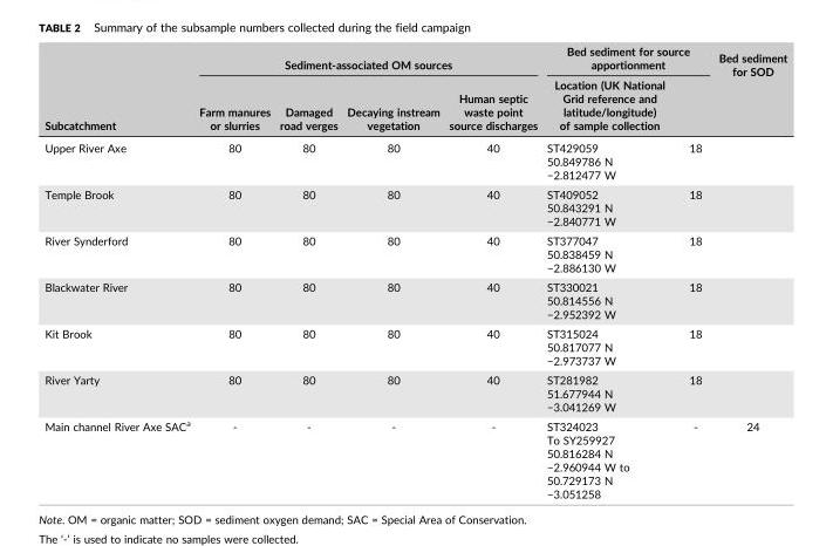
<table><thead><tr><td rowspan="2">Subcatchment</td><td colspan="4">Sediment‐associated OM sources</td><td colspan="2">Bed sediment for source apportionment</td><td rowspan="2">Bed sediment for SOD</td></tr><tr><td>Farm manures or slurries</td><td>Damaged road verges</td><td>Decaying instream vegetation</td><td>Human septic waste point source discharges</td><td>Location (UK National Grid reference and latitude/longitude) of sample collection</td><td></td></tr></thead><tbody><tr><td>Upper River Axe</td><td>80</td><td>80</td><td>80</td><td>40</td><td>ST429059 50.849786 N −2.812477 W</td><td>18</td><td></td></tr><tr><td>Temple Brook</td><td>80</td><td>80</td><td>80</td><td>40</td><td>ST409052 50.843291 N −2.840771 W</td><td>18</td><td></td></tr><tr><td>River Synderford</td><td>80</td><td>80</td><td>80</td><td>40</td><td>ST377047 50.838459 N −2.886130 W</td><td>18</td><td></td></tr><tr><td>Blackwater River</td><td>80</td><td>80</td><td>80</td><td>40</td><td>ST330021 50.814556 N −2.952392 W</td><td>18</td><td></td></tr><tr><td>Kit Brook</td><td>80</td><td>80</td><td>80</td><td>40</td><td>ST315024 50.817077 N −2.973737 W</td><td>18</td><td></td></tr><tr><td>River Yarty</td><td>80</td><td>80</td><td>80</td><td>40</td><td>ST281982 51.677944 N −3.041269 W</td><td>18</td><td></td></tr><tr><td>Main channel River Axe SAC<sup>a</sup></td><td>‐</td><td>‐</td><td>‐</td><td>‐</td><td>ST324023 To SY259927 50.816284 N −2.960944 W to 50.729173 N −3.051258</td><td>‐</td><td>24</td></tr></tbody></table>